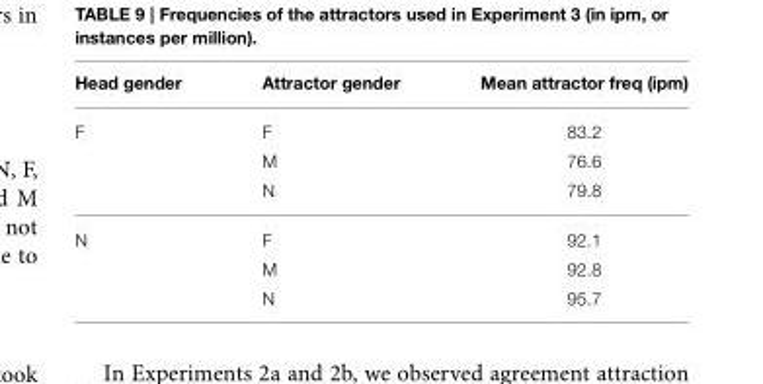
<table><thead><tr><td>Head gender</td><td>Attractor gender</td><td>Mean attractor freq (ipm)</td></tr></thead><tbody><tr><td rowspan="3">F</td><td>F</td><td>83.2</td></tr><tr><td>M</td><td>76.6</td></tr><tr><td>N</td><td>79.8</td></tr><tr><td rowspan="3">N</td><td>F</td><td>92.1</td></tr><tr><td>M</td><td>92.8</td></tr><tr><td>N</td><td>95.7</td></tr></tbody></table>